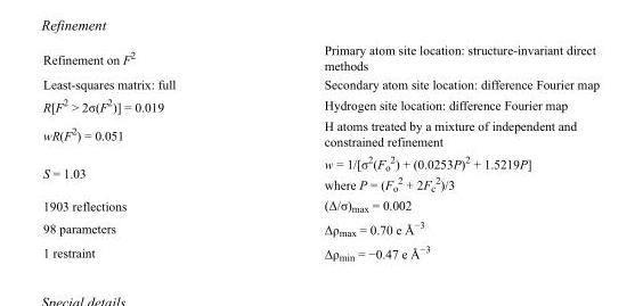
<table><tbody><tr><td>Refinement on F<sup>2</sup></td><td>Primary atom site location: structure-invariant direct methods</td></tr><tr><td>Least-squares matrix: full</td><td>Secondary atom site location: difference Fourier map</td></tr><tr><td>R[F<sup>2</sup> &gt; 2σ(F<sup>2</sup>)] = 0.019</td><td>Hydrogen site location: difference Fourier map</td></tr><tr><td>wR(F<sup>2</sup>) = 0.051</td><td>H atoms treated by a mixture of independent and constrained refinement</td></tr><tr><td>S = 1.03</td><td>w = 1/[σ<sup>2</sup>(F<sub>o</sub> <sup>2</sup>) + (0.0253P)<sup>2</sup> + 1.5219P] where P = (F<sub>o</sub> <sup>2</sup> + 2F<sub>c</sub> <sup>2</sup>)/3</td></tr><tr><td>1903 reflections</td><td>(Δ/σ)<sub>max</sub> = 0.002</td></tr><tr><td>98 parameters</td><td>Δρ<sub>max</sub> = 0.70 e Å<sup>−3</sup></td></tr><tr><td>1 restraint</td><td>Δρ<sub>min</sub> = −0.47 e Å<sup>−3</sup></td></tr></tbody></table>